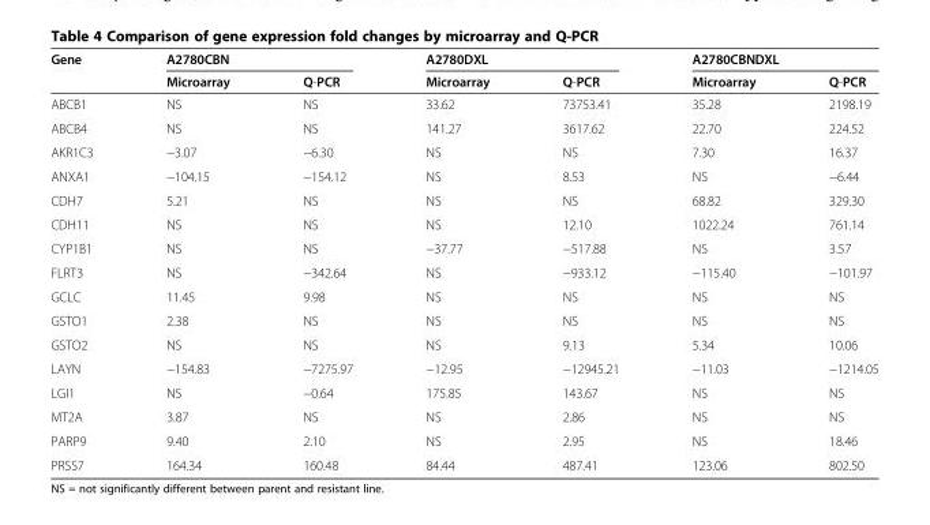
<table><thead><tr><td rowspan="2">Gene</td><td colspan="2">A2780CBN</td><td colspan="2">A2780DXL</td><td colspan="2">A2780CBNDXL</td></tr><tr><td>Microarray</td><td>Q-PCR</td><td>Microarray</td><td>Q-PCR</td><td>Microarray</td><td>Q-PCR</td></tr></thead><tbody><tr><td>ABCB1</td><td>NS</td><td>NS</td><td>33.62</td><td>73753.41</td><td>35.28</td><td>2198.19</td></tr><tr><td>ABCB4</td><td>NS</td><td>NS</td><td>141.27</td><td>3617.62</td><td>22.70</td><td>224.52</td></tr><tr><td>AKR1C3</td><td>−3.07</td><td>−6.30</td><td>NS</td><td>NS</td><td>7.30</td><td>16.37</td></tr><tr><td>ANXA1</td><td>−104.15</td><td>−154.12</td><td>NS</td><td>8.53</td><td>NS</td><td>−6.44</td></tr><tr><td>CDH7</td><td>5.21</td><td>NS</td><td>NS</td><td>NS</td><td>68.82</td><td>329.30</td></tr><tr><td>CDH11</td><td>NS</td><td>NS</td><td>NS</td><td>12.10</td><td>1022.24</td><td>761.14</td></tr><tr><td>CYP1B1</td><td>NS</td><td>NS</td><td>−37.77</td><td>−517.88</td><td>NS</td><td>3.57</td></tr><tr><td>FLRT3</td><td>NS</td><td>−342.64</td><td>NS</td><td>−933.12</td><td>−115.40</td><td>−101.97</td></tr><tr><td>GCLC</td><td>11.45</td><td>9.98</td><td>NS</td><td>NS</td><td>NS</td><td>NS</td></tr><tr><td>GSTO1</td><td>2.38</td><td>NS</td><td>NS</td><td>NS</td><td>NS</td><td>NS</td></tr><tr><td>GSTO2</td><td>NS</td><td>NS</td><td>NS</td><td>9.13</td><td>5.34</td><td>10.06</td></tr><tr><td>LAYN</td><td>−154.83</td><td>−7275.97</td><td>−12.95</td><td>−12945.21</td><td>−11.03</td><td>−1214.05</td></tr><tr><td>LGI1</td><td>NS</td><td>−0.64</td><td>175.85</td><td>143.67</td><td>NS</td><td>NS</td></tr><tr><td>MT2A</td><td>3.87</td><td>NS</td><td>NS</td><td>2.86</td><td>NS</td><td>NS</td></tr><tr><td>PARP9</td><td>9.40</td><td>2.10</td><td>NS</td><td>2.95</td><td>NS</td><td>18.46</td></tr><tr><td>PRSS7</td><td>164.34</td><td>160.48</td><td>84.44</td><td>487.41</td><td>123.06</td><td>802.50</td></tr></tbody></table>